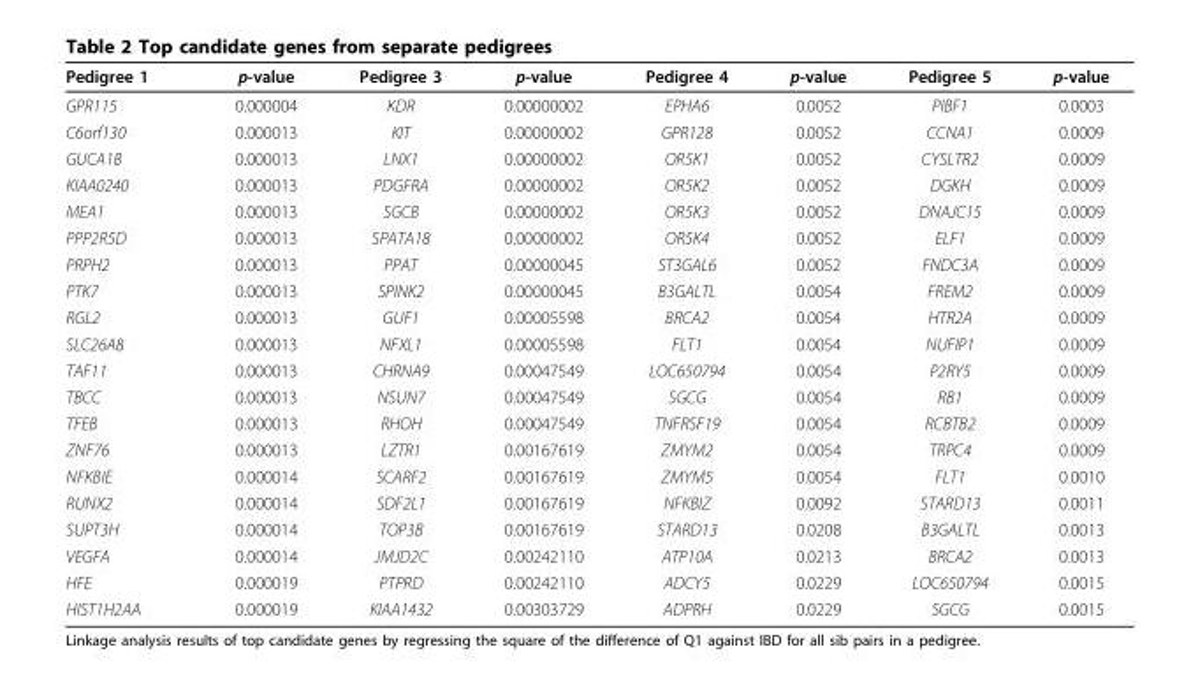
<table><thead><tr><td>Pedigree 1</td><td>p-value</td><td>Pedigree 3</td><td>p-value</td><td>Pedigree 4</td><td>p-value</td><td>Pedigree 5</td><td>p-value</td></tr></thead><tbody><tr><td>GPR115</td><td>0.000004</td><td>KDR</td><td>0.00000002</td><td>EPHA6</td><td>0.0052</td><td>PIBF1</td><td>0.0003</td></tr><tr><td>C6orf130</td><td>0.000013</td><td>KIT</td><td>0.00000002</td><td>GPR128</td><td>0.0052</td><td>CCNA1</td><td>0.0009</td></tr><tr><td>GUCA1B</td><td>0.000013</td><td>LNX1</td><td>0.00000002</td><td>OR5K1</td><td>0.0052</td><td>CYSLTR2</td><td>0.0009</td></tr><tr><td>KIAA0240</td><td>0.000013</td><td>PDGFRA</td><td>0.00000002</td><td>OR5K2</td><td>0.0052</td><td>DGKH</td><td>0.0009</td></tr><tr><td>MEA1</td><td>0.000013</td><td>SGCB</td><td>0.00000002</td><td>OR5K3</td><td>0.0052</td><td>DNAJC15</td><td>0.0009</td></tr><tr><td>PPP2R5D</td><td>0.000013</td><td>SPATA18</td><td>0.00000002</td><td>OR5K4</td><td>0.0052</td><td>ELF1</td><td>0.0009</td></tr><tr><td>PRPH2</td><td>0.000013</td><td>PPAT</td><td>0.00000045</td><td>ST3GAL6</td><td>0.0052</td><td>FNDC3A</td><td>0.0009</td></tr><tr><td>PTK7</td><td>0.000013</td><td>SPINK2</td><td>0.00000045</td><td>B3GALTL</td><td>0.0054</td><td>FREM2</td><td>0.0009</td></tr><tr><td>RGL2</td><td>0.000013</td><td>GUF1</td><td>0.00005598</td><td>BRCA2</td><td>0.0054</td><td>HTR2A</td><td>0.0009</td></tr><tr><td>SLC26A8</td><td>0.000013</td><td>NFXL1</td><td>0.00005598</td><td>FLT1</td><td>0.0054</td><td>NUFIP1</td><td>0.0009</td></tr><tr><td>TAF11</td><td>0.000013</td><td>CHRNA9</td><td>0.00047549</td><td>LOC650794</td><td>0.0054</td><td>P2RY5</td><td>0.0009</td></tr><tr><td>TBCC</td><td>0.000013</td><td>NSUN7</td><td>0.00047549</td><td>SGCG</td><td>0.0054</td><td>RB1</td><td>0.0009</td></tr><tr><td>TFEB</td><td>0.000013</td><td>RHOH</td><td>0.00047549</td><td>TNFRSF19</td><td>0.0054</td><td>RCBTB2</td><td>0.0009</td></tr><tr><td>ZNF76</td><td>0.000013</td><td>LZTR1</td><td>0.00167619</td><td>ZMYM2</td><td>0.0054</td><td>TRPC4</td><td>0.0009</td></tr><tr><td>NFKBIE</td><td>0.000014</td><td>SCARF2</td><td>0.00167619</td><td>ZMYM5</td><td>0.0054</td><td>FLT1</td><td>0.0010</td></tr><tr><td>RUNX2</td><td>0.000014</td><td>SDF2L1</td><td>0.00167619</td><td>NFKBIZ</td><td>0.0092</td><td>STARD13</td><td>0.0011</td></tr><tr><td>SUPT3H</td><td>0.000014</td><td>TOP3B</td><td>0.00167619</td><td>STARD13</td><td>0.0208</td><td>B3GALTL</td><td>0.0013</td></tr><tr><td>VEGFA</td><td>0.000014</td><td>JMJD2C</td><td>0.00242110</td><td>ATP10A</td><td>0.0213</td><td>BRCA2</td><td>0.0013</td></tr><tr><td>HFE</td><td>0.000019</td><td>PTPRD</td><td>0.00242110</td><td>ADCY5</td><td>0.0229</td><td>LOC650794</td><td>0.0015</td></tr><tr><td>HIST1H2AA</td><td>0.000019</td><td>KIAA1432</td><td>0.00303729</td><td>ADPRH</td><td>0.0229</td><td>SGCG</td><td>0.0015</td></tr></tbody></table>